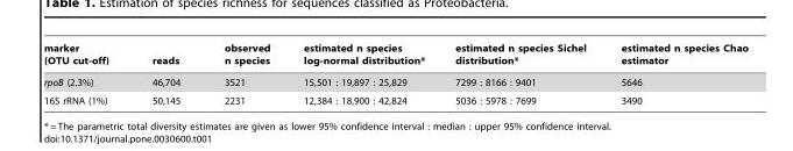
<table><thead><tr><td>marker (OTU cut-off)</td><td>reads</td><td>observed n species</td><td>estimated n species log-normal distribution*</td><td>estimated n species Sichel distribution*</td><td>estimated n species Chao estimator</td></tr></thead><tbody><tr><td>rpoB (2.3%)</td><td>46,704</td><td>3521</td><td>15,501 : 19,897 : 25,829</td><td>7299 : 8166 : 9401</td><td>5646</td></tr><tr><td>16S rRNA (1%)</td><td>50,145</td><td>2231</td><td>12,384 : 18,900 : 42,824</td><td>5036 : 5978 : 7699</td><td>3490</td></tr></tbody></table>